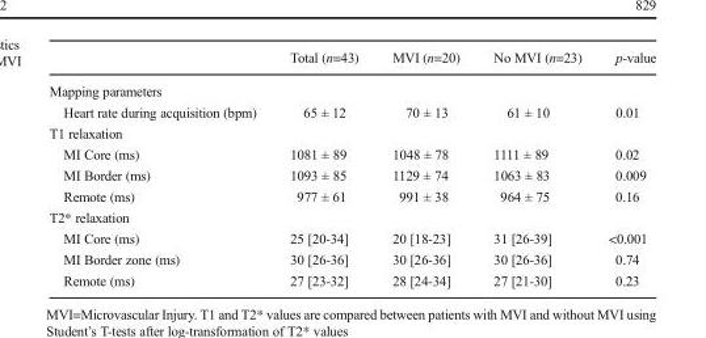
<table><thead><tr><td></td><td>Total (n=43)</td><td>MVI (n=20)</td><td>No MVI (n=23)</td><td>p-value</td></tr></thead><tbody><tr><td colspan="5">Mapping parameters</td></tr><tr><td>Heart rate during acquisition (bpm)</td><td>65 ± 12</td><td>70 ± 13</td><td>61 ± 10</td><td>0.01</td></tr><tr><td colspan="5">T1 relaxation</td></tr><tr><td>MI Core (ms)</td><td>1081 ± 89</td><td>1048 ± 78</td><td>1111 ± 89</td><td>0.02</td></tr><tr><td>MI Border (ms)</td><td>1093 ± 85</td><td>1129 ± 74</td><td>1063 ± 83</td><td>0.009</td></tr><tr><td>Remote (ms)</td><td>977 ± 61</td><td>991 ± 38</td><td>964 ± 75</td><td>0.16</td></tr><tr><td colspan="5">T2* relaxation</td></tr><tr><td>MI Core (ms)</td><td>25 [20-34]</td><td>20 [18-23]</td><td>31 [26-39]</td><td>&lt;0.001</td></tr><tr><td>MI Border zone (ms)</td><td>30 [26-36]</td><td>30 [26-36]</td><td>30 [26-36]</td><td>0.74</td></tr><tr><td>Remote (ms)</td><td>27 [23-32]</td><td>28 [24-34]</td><td>27 [21-30]</td><td>0.23</td></tr></tbody></table>